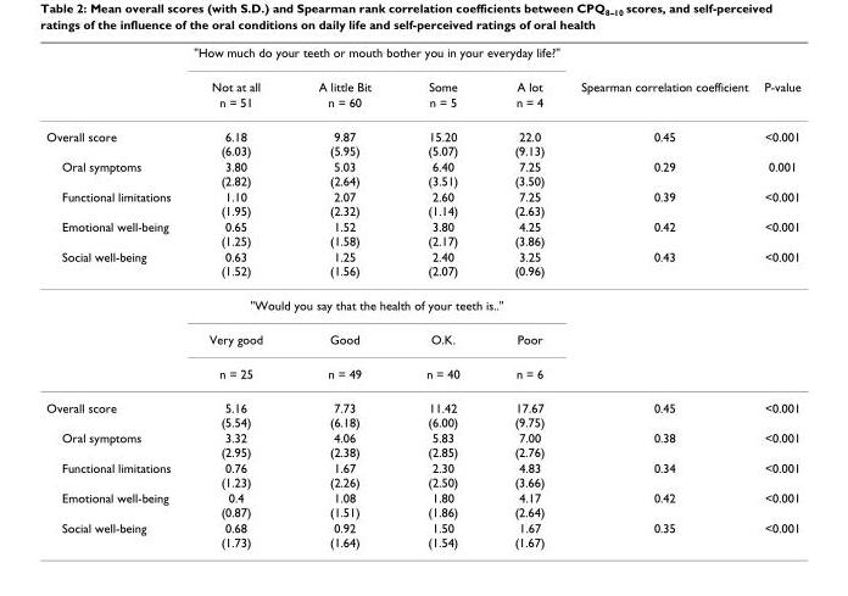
<table><thead><tr><td rowspan="3"></td><td colspan="4">&quot;How much do your teeth or mouth bother you in your everyday life?&quot;</td><td rowspan="3">Spearman correlation coefficient</td><td rowspan="3">P-value</td></tr><tr><td rowspan="2">Not at all n = 51</td><td rowspan="2">A little Bit n = 60</td><td rowspan="2">Some n = 5</td><td rowspan="2">A lot n = 4</td></tr><tr></tr></thead><tbody><tr><td>Overall score</td><td>6.18 (6.03)</td><td>9.87 (5.95)</td><td>15.20 (5.07)</td><td>22.0 (9.13)</td><td>0.45</td><td>&lt;0.001</td></tr><tr><td>Oral symptoms</td><td>3.80 (2.82)</td><td>5.03 (2.64)</td><td>6.40 (3.51)</td><td>7.25 (3.50)</td><td>0.29</td><td>0.001</td></tr><tr><td>Functional limitations</td><td>1.10 (1.95)</td><td>2.07 (2.32)</td><td>2.60 (1.14)</td><td>7.25 (2.63)</td><td>0.39</td><td>&lt;0.001</td></tr><tr><td>Emotional well-being</td><td>0.65 (1.25)</td><td>1.52 (1.58)</td><td>3.80 (2.17)</td><td>4.25 (3.86)</td><td>0.42</td><td>&lt;0.001</td></tr><tr><td rowspan="4">Social well-being</td><td>0.63 (1.52)</td><td>1.25 (1.56)</td><td>2.40 (2.07)</td><td>3.25 (0.96)</td><td>0.43</td><td>&lt;0.001</td></tr><tr><td colspan="4">&quot;Would you say that the health of your teeth is..&quot;</td><td></td><td></td></tr><tr><td>Very good</td><td>Good</td><td>O.K.</td><td>Poor</td><td></td><td></td></tr><tr><td>n = 25</td><td>n = 49</td><td>n = 40</td><td>n = 6</td><td></td><td></td></tr><tr><td>Overall score</td><td>5.16 (5.54)</td><td>7.73 (6.18)</td><td>11.42 (6.00)</td><td>17.67 (9.75)</td><td>0.45</td><td>&lt;0.001</td></tr><tr><td>Oral symptoms</td><td>3.32 (2.95)</td><td>4.06 (2.38)</td><td>5.83 (2.85)</td><td>7.00 (2.76)</td><td>0.38</td><td>&lt;0.001</td></tr><tr><td>Functional limitations</td><td>0.76 (1.23)</td><td>1.67 (2.26)</td><td>2.30 (2.50)</td><td>4.83 (3.66)</td><td>0.34</td><td>&lt;0.001</td></tr><tr><td>Emotional well-being</td><td>0.4 (0.87)</td><td>1.08 (1.51)</td><td>1.80 (1.86)</td><td>4.17 (2.64)</td><td>0.42</td><td>&lt;0.001</td></tr><tr><td>Social well-being</td><td>0.68 (1.73)</td><td>0.92 (1.64)</td><td>1.50 (1.54)</td><td>1.67 (1.67)</td><td>0.35</td><td>&lt;0.001</td></tr></tbody></table>